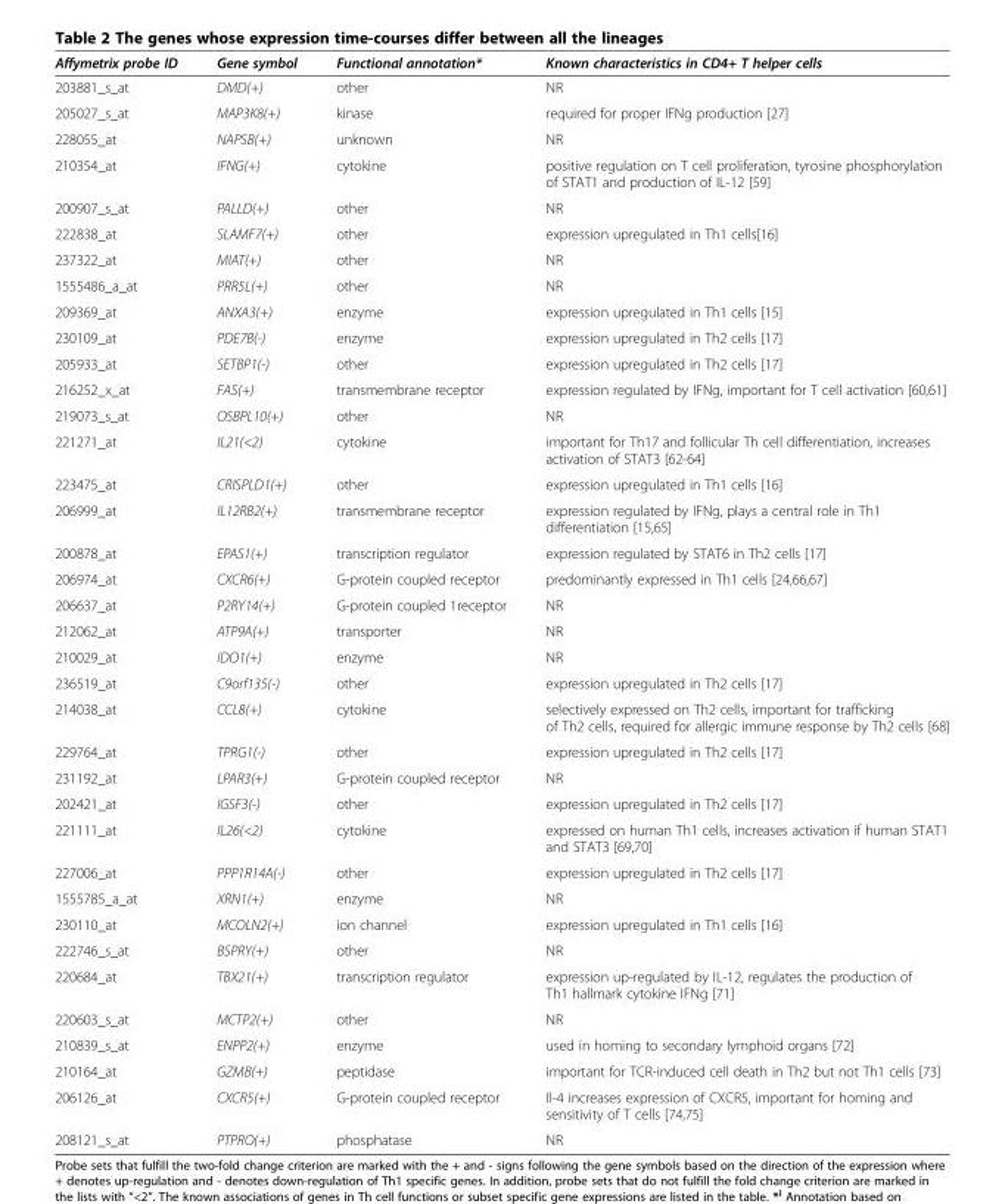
<table><thead><tr><td>Affymetrix probe ID</td><td>Gene symbol</td><td>Functional annotation*</td><td>Known characteristics in CD4+ T helper cells</td></tr></thead><tbody><tr><td>203881_s_at</td><td>DMD(+)</td><td>other</td><td>NR</td></tr><tr><td>205027_s_at</td><td>MAP3K8(+)</td><td>kinase</td><td>required for proper IFNg production [27]</td></tr><tr><td>228055_at</td><td>NAPSB(+)</td><td>unknown</td><td>NR</td></tr><tr><td>210354_at</td><td>IFNG(+)</td><td>cytokine</td><td>positive regulation on T cell proliferation, tyrosine phosphorylation of STAT1 and production of IL-12 [59]</td></tr><tr><td>200907_s_at</td><td>PALLD(+)</td><td>other</td><td>NR</td></tr><tr><td>222838_at</td><td>SLAMF7(+)</td><td>other</td><td>expression upregulated in Th1 cells[16]</td></tr><tr><td>237322_at</td><td>MIAT(+)</td><td>other</td><td>NR</td></tr><tr><td>1555486_a_at</td><td>PRR5L(+)</td><td>other</td><td>NR</td></tr><tr><td>209369_at</td><td>ANXA3(+)</td><td>enzyme</td><td>expression upregulated in Th1 cells [15]</td></tr><tr><td>230109_at</td><td>PDE7B(-)</td><td>enzyme</td><td>expression upregulated in Th2 cells [17]</td></tr><tr><td>205933_at</td><td>SETBP1(-)</td><td>other</td><td>expression upregulated in Th2 cells [17]</td></tr><tr><td>216252_x_at</td><td>FAS(+)</td><td>transmembrane receptor</td><td>expression regulated by IFNg, important for T cell activation [60,61]</td></tr><tr><td>219073_s_at</td><td>OSBPL10(+)</td><td>other</td><td>NR</td></tr><tr><td>221271_at</td><td>IL21(&lt;2)</td><td>cytokine</td><td>important for Th17 and follicular Th cell differentiation, increases activation of STAT3 [62-64]</td></tr><tr><td>223475_at</td><td>CRISPLD1(+)</td><td>other</td><td>expression upregulated in Th1 cells [16]</td></tr><tr><td>206999_at</td><td>IL12RB2(+)</td><td>transmembrane receptor</td><td>expression regulated by IFNg, plays a central role in Th1 differentiation [15,65]</td></tr><tr><td>200878_at</td><td>EPAS1(+)</td><td>transcription regulator</td><td>expression regulated by STAT6 in Th2 cells [17]</td></tr><tr><td>206974_at</td><td>CXCR6(+)</td><td>G-protein coupled receptor</td><td>predominantly expressed in Th1 cells [24,66,67]</td></tr><tr><td>206637_at</td><td>P2RY14(+)</td><td>G-protein coupled 1receptor</td><td>NR</td></tr><tr><td>212062_at</td><td>ATP9A(+)</td><td>transporter</td><td>NR</td></tr><tr><td>210029_at</td><td>IDO1(+)</td><td>enzyme</td><td>NR</td></tr><tr><td>236519_at</td><td>C9orf135(-)</td><td>other</td><td>expression upregulated in Th2 cells [17]</td></tr><tr><td>214038_at</td><td>CCL8(+)</td><td>cytokine</td><td>selectively expressed on Th2 cells, important for trafficking of Th2 cells, required for allergic immune response by Th2 cells [68]</td></tr><tr><td>229764_at</td><td>TPRG1(-)</td><td>other</td><td>expression upregulated in Th2 cells [17]</td></tr><tr><td>231192_at</td><td>LPAR3(+)</td><td>G-protein coupled receptor</td><td>NR</td></tr><tr><td>202421_at</td><td>IGSF3(-)</td><td>other</td><td>expression upregulated in Th2 cells [17]</td></tr><tr><td>221111_at</td><td>IL26(&lt;2)</td><td>cytokine</td><td>expressed on human Th1 cells, increases activation if human STAT1 and STAT3 [69,70]</td></tr><tr><td>227006_at</td><td>PPP1R14A(-)</td><td>other</td><td>expression upregulated in Th2 cells [17]</td></tr><tr><td>1555785_a_at</td><td>XRN1(+)</td><td>enzyme</td><td>NR</td></tr><tr><td>230110_at</td><td>MCOLN2(+)</td><td>ion channel</td><td>expression upregulated in Th1 cells [16]</td></tr><tr><td>222746_s_at</td><td>BSPRY(+)</td><td>other</td><td>NR</td></tr><tr><td>220684_at</td><td>TBX21(+)</td><td>transcription regulator</td><td>expression up-regulated by IL-12, regulates the production of Th1 hallmark cytokine IFNg [71]</td></tr><tr><td>220603_s_at</td><td>MCTP2(+)</td><td>other</td><td>NR</td></tr><tr><td>210839_s_at</td><td>ENPP2(+)</td><td>enzyme</td><td>used in homing to secondary lymphoid organs [72]</td></tr><tr><td>210164_at</td><td>GZMB(+)</td><td>peptidase</td><td>important for TCR-induced cell death in Th2 but not Th1 cells [73]</td></tr><tr><td>206126_at</td><td>CXCR5(+)</td><td>G-protein coupled receptor</td><td>Il-4 increases expression of CXCR5, important for homing and sensitivity of T cells [74,75]</td></tr><tr><td>208121_s_at</td><td>PTPRO(+)</td><td>phosphatase</td><td>NR</td></tr></tbody></table>